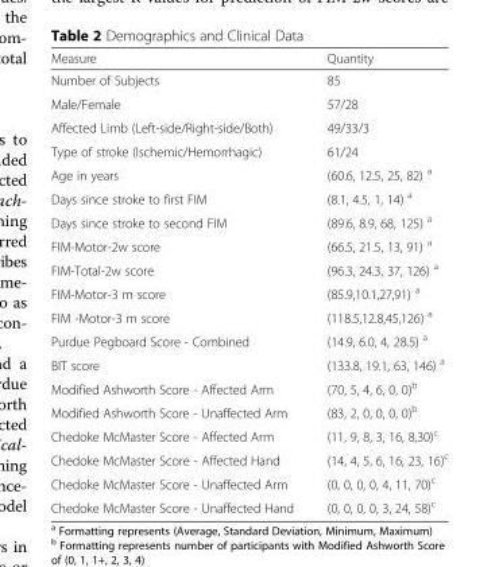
<table><thead><tr><td>Measure</td><td>Quantity</td></tr></thead><tbody><tr><td>Number of Subjects</td><td>85</td></tr><tr><td>Male/Female</td><td>57/28</td></tr><tr><td>Affected Limb (Left-side/Right-side/Both)</td><td>49/33/3</td></tr><tr><td>Type of stroke (Ischemic/Hemorrhagic)</td><td>61/24</td></tr><tr><td>Age in years</td><td>(60.6, 12.5, 25, 82) <sup>a</sup></td></tr><tr><td>Days since stroke to first FIM</td><td>(8.1, 4.5, 1, 14) <sup>a</sup></td></tr><tr><td>Days since stroke to second FIM</td><td>(89.6, 8.9, 68, 125) <sup>a</sup></td></tr><tr><td>FIM-Motor-2w score</td><td>(66.5, 21.5, 13, 91) <sup>a</sup></td></tr><tr><td>FIM-Total-2w score</td><td>(96.3, 24.3, 37, 126) <sup>a</sup></td></tr><tr><td>FIM-Motor-3 m score</td><td>(85.9,10.1,27,91) <sup>a</sup></td></tr><tr><td>FIM -Motor-3 m score</td><td>(118.5,12.8,45,126) <sup>a</sup></td></tr><tr><td>Purdue Pegboard Score - Combined</td><td>(14.9, 6.0, 4, 28.5) <sup>a</sup></td></tr><tr><td>BIT score</td><td>(133.8, 19.1, 63, 146) <sup>a</sup></td></tr><tr><td>Modified Ashworth Score - Affected Arm</td><td>(70, 5, 4, 6, 0, 0)<sup>b</sup></td></tr><tr><td>Modified Ashworth Score - Unaffected Arm</td><td>(83, 2, 0, 0, 0, 0)<sup>b</sup></td></tr><tr><td>Chedoke McMaster Score - Affected Arm</td><td>(11, 9, 8, 3, 16, 8,30)<sup>c</sup></td></tr><tr><td>Chedoke McMaster Score - Affected Hand</td><td>(14, 4, 5, 6, 16, 23, 16)<sup>c</sup></td></tr><tr><td>Chedoke McMaster Score - Unaffected Arm</td><td>(0, 0, 0, 0, 4, 11, 70)<sup>c</sup></td></tr><tr><td>Chedoke McMaster Score - Unaffected Hand</td><td>(0, 0, 0, 0, 3, 24, 58)<sup>c</sup></td></tr></tbody></table>